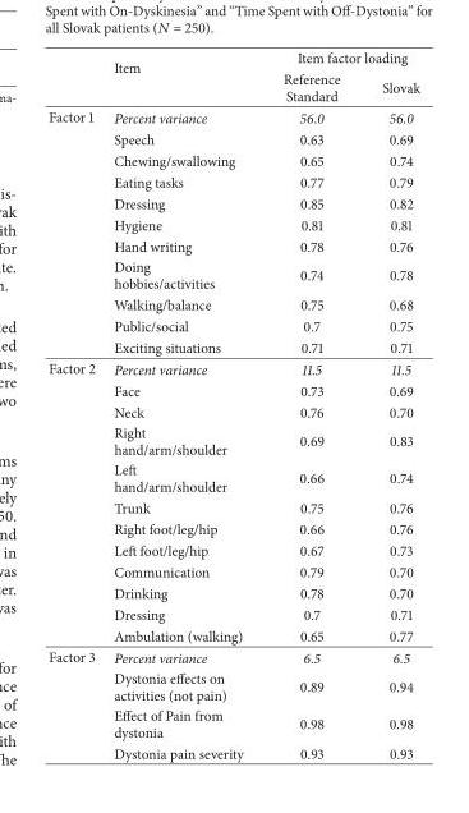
<table><thead><tr><td rowspan="2"></td><td rowspan="2">Item</td><td colspan="2">Item factor loading</td></tr><tr><td>Reference Standard</td><td>Slovak</td></tr></thead><tbody><tr><td rowspan="11">Factor 1</td><td>Percent variance</td><td>56.0</td><td>56.0</td></tr><tr><td>Speech</td><td>0.63</td><td>0.69</td></tr><tr><td>Chewing/swallowing</td><td>0.65</td><td>0.74</td></tr><tr><td>Eating tasks</td><td>0.77</td><td>0.79</td></tr><tr><td>Dressing</td><td>0.85</td><td>0.82</td></tr><tr><td>Hygiene</td><td>0.81</td><td>0.81</td></tr><tr><td>Hand writing</td><td>0.78</td><td>0.76</td></tr><tr><td>Doing hobbies/activities</td><td>0.74</td><td>0.78</td></tr><tr><td>Walking/balance</td><td>0.75</td><td>0.68</td></tr><tr><td>Public/social</td><td>0.7</td><td>0.75</td></tr><tr><td>Exciting situations</td><td>0.71</td><td>0.71</td></tr><tr><td rowspan="12">Factor 2</td><td>Percent variance</td><td>11.5</td><td>11.5</td></tr><tr><td>Face</td><td>0.73</td><td>0.69</td></tr><tr><td>Neck</td><td>0.76</td><td>0.70</td></tr><tr><td>Right hand/arm/shoulder</td><td>0.69</td><td>0.83</td></tr><tr><td>Left hand/arm/shoulder</td><td>0.66</td><td>0.74</td></tr><tr><td>Trunk</td><td>0.75</td><td>0.76</td></tr><tr><td>Right foot/leg/hip</td><td>0.66</td><td>0.76</td></tr><tr><td>Left foot/leg/hip</td><td>0.67</td><td>0.73</td></tr><tr><td>Communication</td><td>0.79</td><td>0.70</td></tr><tr><td>Drinking</td><td>0.78</td><td>0.70</td></tr><tr><td>Dressing</td><td>0.7</td><td>0.71</td></tr><tr><td>Ambulation (walking)</td><td>0.65</td><td>0.77</td></tr><tr><td rowspan="4">Factor 3</td><td>Percent variance</td><td>6.5</td><td>6.5</td></tr><tr><td>Dystonia effects on activities (not pain)</td><td>0.89</td><td>0.94</td></tr><tr><td>Effect of Pain from dystonia</td><td>0.98</td><td>0.98</td></tr><tr><td>Dystonia pain severity</td><td>0.93</td><td>0.93</td></tr></tbody></table>